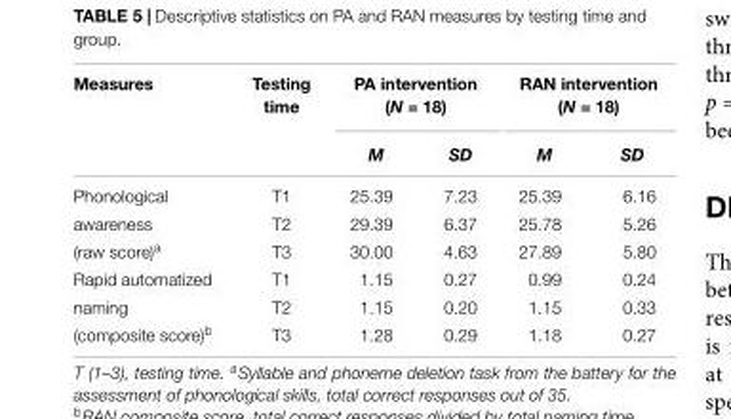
<table><thead><tr><td rowspan="2">Measures</td><td rowspan="2">Testing time</td><td colspan="2">PA intervention (N = 18)</td><td colspan="2">RAN intervention (N = 18)</td></tr><tr><td>M</td><td>SD</td><td>M</td><td>SD</td></tr></thead><tbody><tr><td>Phonological</td><td>T1</td><td>25.39</td><td>7.23</td><td>25.39</td><td>6.16</td></tr><tr><td>awareness</td><td>T2</td><td>29.39</td><td>6.37</td><td>25.78</td><td>5.26</td></tr><tr><td>(raw score)<sup>a</sup></td><td>T3</td><td>30.00</td><td>4.63</td><td>27.89</td><td>5.80</td></tr><tr><td>Rapid automatized</td><td>T1</td><td>1.15</td><td>0.27</td><td>0.99</td><td>0.24</td></tr><tr><td>naming</td><td>T2</td><td>1.15</td><td>0.20</td><td>1.15</td><td>0.33</td></tr><tr><td>(composite score)<sup>b</sup></td><td>T3</td><td>1.28</td><td>0.29</td><td>1.18</td><td>0.27</td></tr></tbody></table>